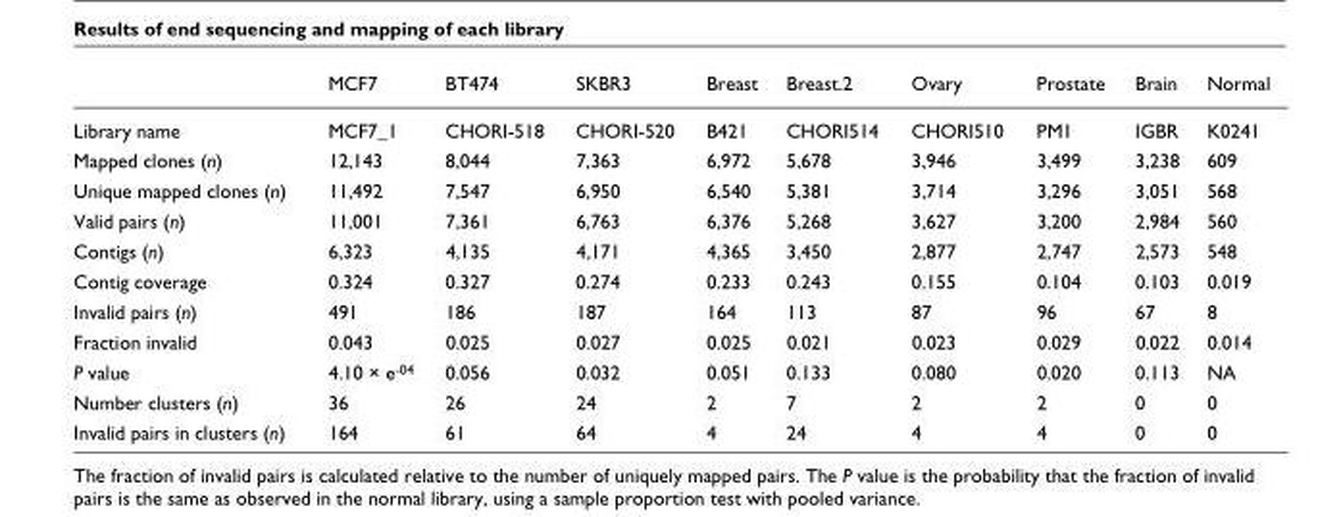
<table><thead><tr><td></td><td>MCF7</td><td>BT474</td><td>SKBR3</td><td>Breast</td><td>Breast.2</td><td>Ovary</td><td>Prostate</td><td>Brain</td><td>Normal</td></tr></thead><tbody><tr><td>Library name</td><td>MCF7_1</td><td>CHORI-518</td><td>CHORI-520</td><td>B421</td><td>CHORI514</td><td>CHORI510</td><td>PM1</td><td>IGBR</td><td>K0241</td></tr><tr><td>Mapped clones (n)</td><td>12,143</td><td>8,044</td><td>7,363</td><td>6,972</td><td>5,678</td><td>3,946</td><td>3,499</td><td>3,238</td><td>609</td></tr><tr><td>Unique mapped clones (n)</td><td>11,492</td><td>7,547</td><td>6,950</td><td>6,540</td><td>5,381</td><td>3,714</td><td>3,296</td><td>3,051</td><td>568</td></tr><tr><td>Valid pairs (n)</td><td>11,001</td><td>7,361</td><td>6,763</td><td>6,376</td><td>5,268</td><td>3,627</td><td>3,200</td><td>2,984</td><td>560</td></tr><tr><td>Contigs (n)</td><td>6,323</td><td>4,135</td><td>4,171</td><td>4,365</td><td>3,450</td><td>2,877</td><td>2,747</td><td>2,573</td><td>548</td></tr><tr><td>Contig coverage</td><td>0.324</td><td>0.327</td><td>0.274</td><td>0.233</td><td>0.243</td><td>0.155</td><td>0.104</td><td>0.103</td><td>0.019</td></tr><tr><td>Invalid pairs (n)</td><td>491</td><td>186</td><td>187</td><td>164</td><td>113</td><td>87</td><td>96</td><td>67</td><td>8</td></tr><tr><td>Fraction invalid</td><td>0.043</td><td>0.025</td><td>0.027</td><td>0.025</td><td>0.021</td><td>0.023</td><td>0.029</td><td>0.022</td><td>0.014</td></tr><tr><td>P value</td><td>4.10 × e<sup>-04</sup></td><td>0.056</td><td>0.032</td><td>0.051</td><td>0.133</td><td>0.080</td><td>0.020</td><td>0.113</td><td>NA</td></tr><tr><td>Number clusters (n)</td><td>36</td><td>26</td><td>24</td><td>2</td><td>7</td><td>2</td><td>2</td><td>0</td><td>0</td></tr><tr><td>Invalid pairs in clusters (n)</td><td>164</td><td>61</td><td>64</td><td>4</td><td>24</td><td>4</td><td>4</td><td>0</td><td>0</td></tr></tbody></table>